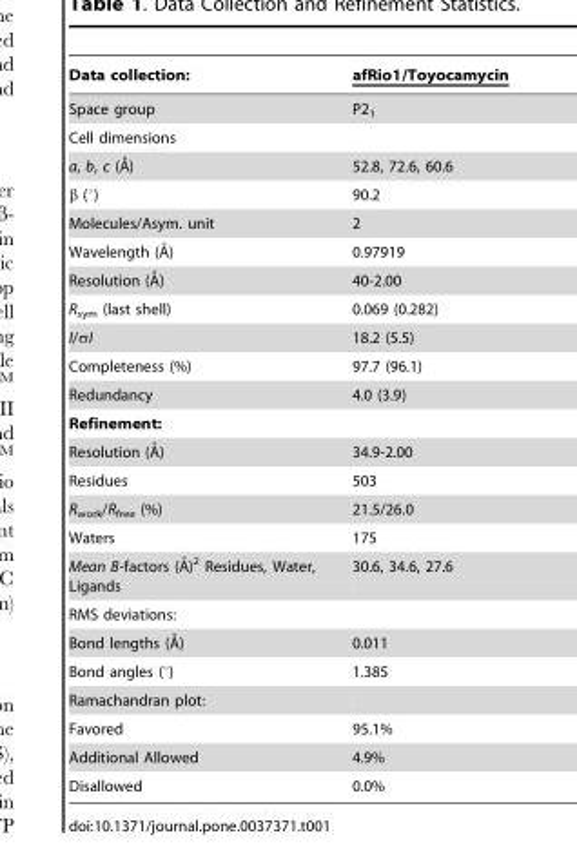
<table><thead><tr><td>Data collection:</td><td>afRio1/Toyocamycin</td></tr></thead><tbody><tr><td>Space group</td><td>P2<sub>1</sub></td></tr><tr><td colspan="2">Cell dimensions</td></tr><tr><td>a, b, c (A˚)</td><td>52.8, 72.6, 60.6</td></tr><tr><td>β (°)</td><td>90.2</td></tr><tr><td>Molecules/Asym. unit</td><td>2</td></tr><tr><td>Wavelength (A˚)</td><td>0.97919</td></tr><tr><td>Resolution (A˚)</td><td>40-2.00</td></tr><tr><td>R<sub>sym</sub> (last shell)</td><td>0.069 (0.282)</td></tr><tr><td>I/σI</td><td>18.2 (5.5)</td></tr><tr><td>Completeness (%)</td><td>97.7 (96.1)</td></tr><tr><td>Redundancy</td><td>4.0 (3.9)</td></tr><tr><td colspan="2">Refinement:</td></tr><tr><td>Resolution (A˚)</td><td>34.9-2.00</td></tr><tr><td>Residues</td><td>503</td></tr><tr><td>R<sub>work</sub>/R<sub>free</sub> (%)</td><td>21.5/26.0</td></tr><tr><td>Waters</td><td>175</td></tr><tr><td>Mean B-factors (A˚)2 Residues, Water, Ligands</td><td>30.6, 34.6, 27.6</td></tr><tr><td colspan="2">RMS deviations:</td></tr><tr><td>Bond lengths (A˚)</td><td>0.011</td></tr><tr><td>Bond angles (°)</td><td>1.385</td></tr><tr><td colspan="2">Ramachandran plot:</td></tr><tr><td>Favored</td><td>95.1%</td></tr><tr><td>Additional Allowed</td><td>4.9%</td></tr><tr><td>Disallowed</td><td>0.0%</td></tr></tbody></table>